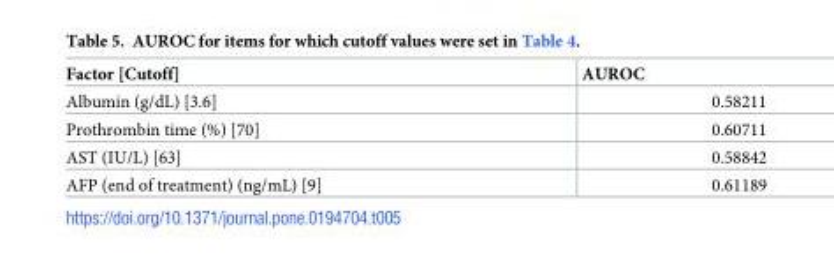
<table><thead><tr><td>Factor [Cutoff]</td><td>AUROC</td></tr></thead><tbody><tr><td>Albumin (g/dL) [3.6]</td><td>0.58211</td></tr><tr><td>Prothrombin time (%) [70]</td><td>0.60711</td></tr><tr><td>AST (IU/L) [63]</td><td>0.58842</td></tr><tr><td>AFP (end of treatment) (ng/mL) [9]</td><td>0.61189</td></tr></tbody></table>